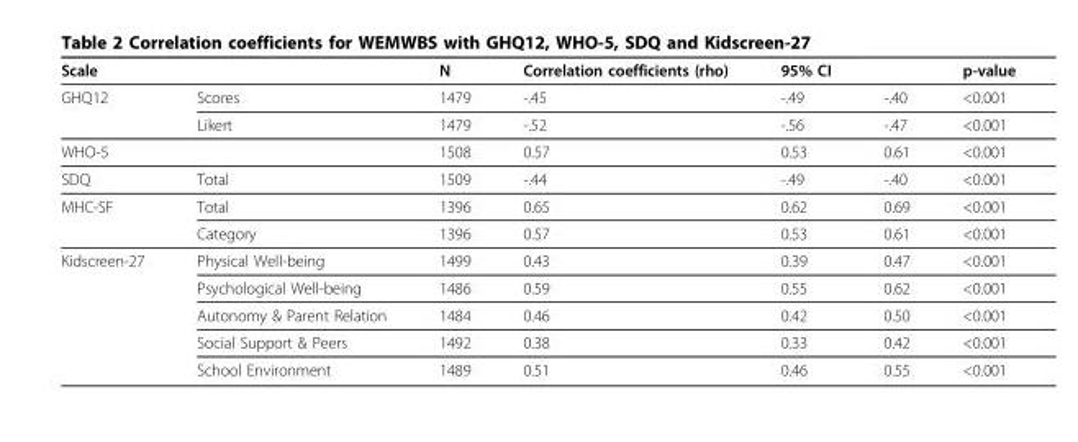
<table><thead><tr><td>Scale</td><td></td><td>N</td><td>Correlation coefficients (rho)</td><td>95% CI</td><td></td><td>p-value</td></tr></thead><tbody><tr><td rowspan="2">GHQ12</td><td>Scores</td><td>1479</td><td>-.45</td><td>-.49</td><td>-.40</td><td>&lt;0.001</td></tr><tr><td>Likert</td><td>1479</td><td>-.52</td><td>-.56</td><td>-.47</td><td>&lt;0.001</td></tr><tr><td>WHO-5</td><td></td><td>1508</td><td>0.57</td><td>0.53</td><td>0.61</td><td>&lt;0.001</td></tr><tr><td>SDQ</td><td>Total</td><td>1509</td><td>-.44</td><td>-.49</td><td>-.40</td><td>&lt;0.001</td></tr><tr><td rowspan="2">MHC-SF</td><td>Total</td><td>1396</td><td>0.65</td><td>0.62</td><td>0.69</td><td>&lt;0.001</td></tr><tr><td>Category</td><td>1396</td><td>0.57</td><td>0.53</td><td>0.61</td><td>&lt;0.001</td></tr><tr><td rowspan="5">Kidscreen-27</td><td>Physical Well-being</td><td>1499</td><td>0.43</td><td>0.39</td><td>0.47</td><td>&lt;0.001</td></tr><tr><td>Psychological Well-being</td><td>1486</td><td>0.59</td><td>0.55</td><td>0.62</td><td>&lt;0.001</td></tr><tr><td>Autonomy &amp; Parent Relation</td><td>1484</td><td>0.46</td><td>0.42</td><td>0.50</td><td>&lt;0.001</td></tr><tr><td>Social Support &amp; Peers</td><td>1492</td><td>0.38</td><td>0.33</td><td>0.42</td><td>&lt;0.001</td></tr><tr><td>School Environment</td><td>1489</td><td>0.51</td><td>0.46</td><td>0.55</td><td>&lt;0.001</td></tr></tbody></table>